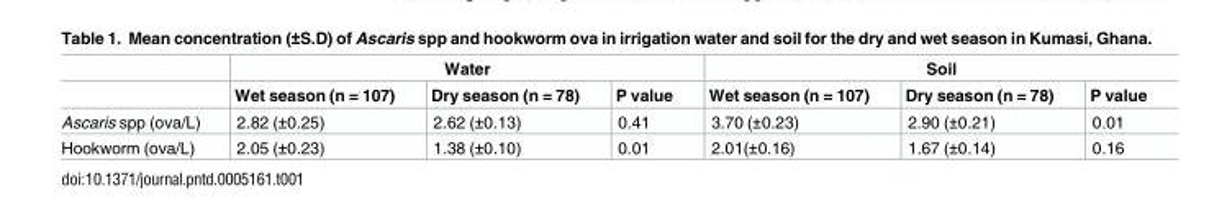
<table><thead><tr><td rowspan="2"></td><td colspan="3">Water</td><td colspan="3">Soil</td></tr><tr><td>Wet season (n = 107)</td><td>Dry season (n = 78)</td><td>P value</td><td>Wet season (n = 107)</td><td>Dry season (n = 78)</td><td>P value</td></tr></thead><tbody><tr><td>Ascaris spp (ova/L)</td><td>2.82 (±0.25)</td><td>2.62 (±0.13)</td><td>0.41</td><td>3.70 (±0.23)</td><td>2.90 (±0.21)</td><td>0.01</td></tr><tr><td>Hookworm (ova/L)</td><td>2.05 (±0.23)</td><td>1.38 (±0.10)</td><td>0.01</td><td>2.01(±0.16)</td><td>1.67 (±0.14)</td><td>0.16</td></tr></tbody></table>